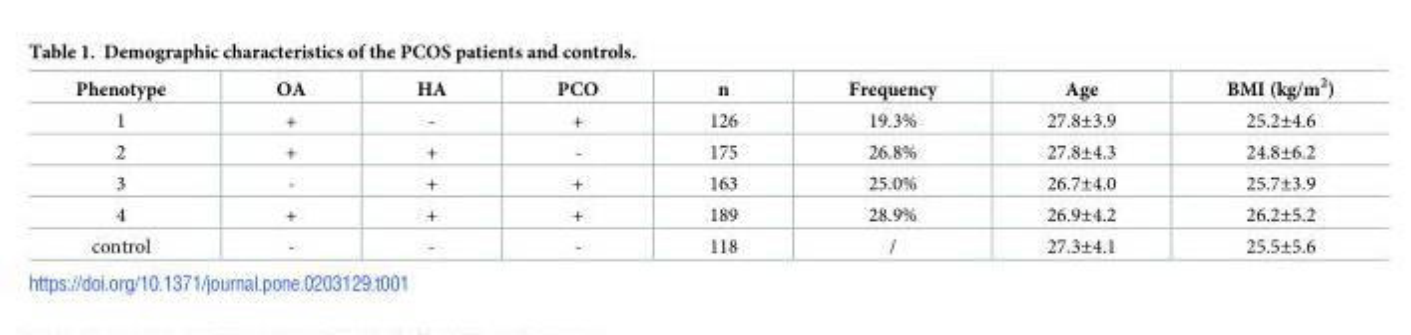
<table><thead><tr><td>Phenotype</td><td>OA</td><td>HA</td><td>PCO</td><td>n</td><td>Frequency</td><td>Age</td><td>BMI (kg/m<sup>2</sup>)</td></tr></thead><tbody><tr><td>1</td><td>+</td><td>-</td><td>+</td><td>126</td><td>19.3%</td><td>27.8±3.9</td><td>25.2±4.6</td></tr><tr><td>2</td><td>+</td><td>+</td><td>-</td><td>175</td><td>26.8%</td><td>27.8±4.3</td><td>24.8±6.2</td></tr><tr><td>3</td><td>-</td><td>+</td><td>+</td><td>163</td><td>25.0%</td><td>26.7±4.0</td><td>25.7±3.9</td></tr><tr><td>4</td><td>+</td><td>+</td><td>+</td><td>189</td><td>28.9%</td><td>26.9±4.2</td><td>26.2±5.2</td></tr><tr><td>control</td><td>-</td><td>-</td><td>-</td><td>118</td><td>/</td><td>27.3±4.1</td><td>25.5±5.6</td></tr></tbody></table>